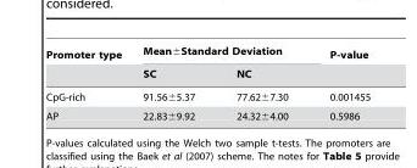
<table><thead><tr><td rowspan="2">Promoter type</td><td colspan="2">Mean±Standard Deviation</td><td rowspan="2">P-value</td></tr><tr><td>SC</td><td>NC</td></tr></thead><tbody><tr><td>CpG-rich</td><td>91.56±5.37</td><td>77.62±7.30</td><td>0.001455</td></tr><tr><td>AP</td><td>22.83±9.92</td><td>24.32±4.00</td><td>0.5986</td></tr></tbody></table>